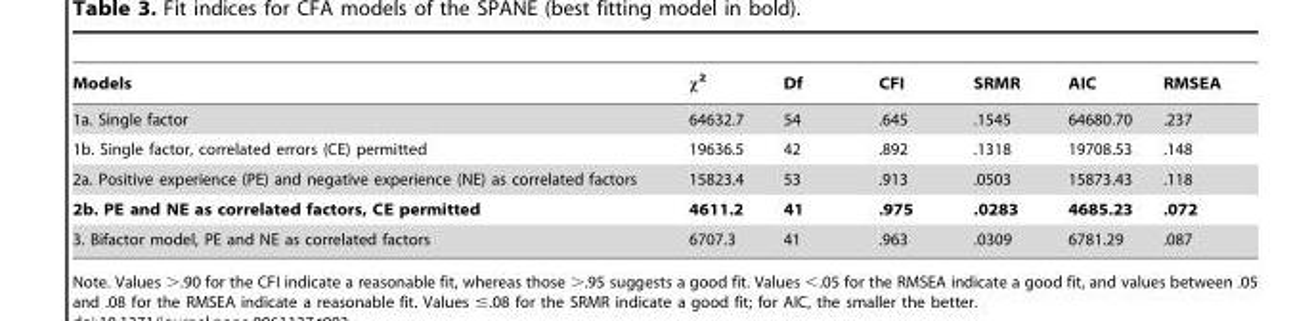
<table><thead><tr><td>Models</td><td>χ<sup>2</sup></td><td>Df</td><td>CFI</td><td>SRMR</td><td>AIC</td><td>RMSEA</td></tr></thead><tbody><tr><td>1a. Single factor</td><td>64632.7</td><td>54</td><td>.645</td><td>.1545</td><td>64680.70</td><td>.237</td></tr><tr><td>1b. Single factor, correlated errors (CE) permitted</td><td>19636.5</td><td>42</td><td>.892</td><td>.1318</td><td>19708.53</td><td>.148</td></tr><tr><td>2a. Positive experience (PE) and negative experience (NE) as correlated factors</td><td>15823.4</td><td>53</td><td>.913</td><td>.0503</td><td>15873.43</td><td>.118</td></tr><tr><td>2b. PE and NE as correlated factors, CE permitted</td><td>4611.2</td><td>41</td><td>.975</td><td>.0283</td><td>4685.23</td><td>.072</td></tr><tr><td>3. Bifactor model, PE and NE as correlated factors</td><td>6707.3</td><td>41</td><td>.963</td><td>.0309</td><td>6781.29</td><td>.087</td></tr></tbody></table>